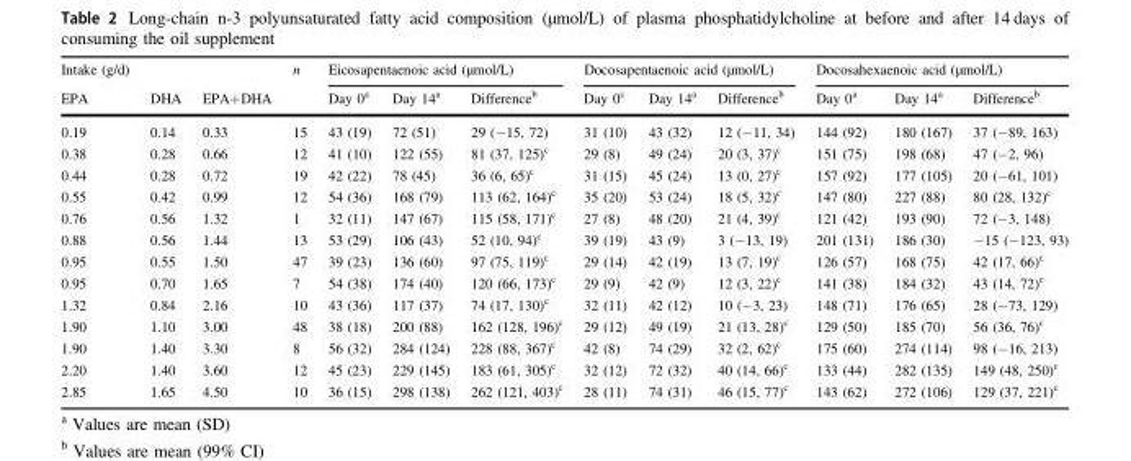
<table><thead><tr><td rowspan="2">Intake (g/d) EPA</td><td rowspan="2">DHA</td><td rowspan="2">EPA+DHA</td><td rowspan="2">n</td><td colspan="3">Eicosapentaenoic acid (µmol/L)</td><td colspan="3">Docosapentaenoic acid (µmol/L)</td><td colspan="3">Docosahexaenoic acid (µmol/L)</td></tr><tr><td>Day 0<sup>a</sup></td><td>Day 14<sup>a</sup></td><td>Difference<sup>b</sup></td><td>Day 0<sup>c</sup></td><td>Day 14<sup>a</sup></td><td>Difference<sup>b</sup></td><td>Day 0<sup>a</sup></td><td>Day 14<sup>a</sup></td><td>Difference<sup>b</sup></td></tr></thead><tbody><tr><td>0.19</td><td>0.14</td><td>0.33</td><td>15</td><td>43 (19)</td><td>72 (51)</td><td>29 (−15, 72)</td><td>31 (10)</td><td>43 (32)</td><td>12 (−11, 34)</td><td>144 (92)</td><td>180 (167)</td><td>37 (−89, 163)</td></tr><tr><td>0.38</td><td>0.28</td><td>0.66</td><td>12</td><td>41 (10)</td><td>122 (55)</td><td>81 (37, 125)<sup>c</sup></td><td>29 (8)</td><td>49 (24)</td><td>20 (3, 37)<sup>c</sup></td><td>151 (75)</td><td>198 (68)</td><td>47 (−2, 96)</td></tr><tr><td>0.44</td><td>0.28</td><td>0.72</td><td>19</td><td>42 (22)</td><td>78 (45)</td><td>36 (6, 65)<sup>c</sup></td><td>31 (15)</td><td>45 (24)</td><td>13 (0, 27)<sup>c</sup></td><td>157 (92)</td><td>177 (105)</td><td>20 (−61, 101)</td></tr><tr><td>0.55</td><td>0.42</td><td>0.99</td><td>12</td><td>54 (36)</td><td>168 (79)</td><td>113 (62, 164)<sup>c</sup></td><td>35 (20)</td><td>53 (24)</td><td>18 (5, 32)<sup>c</sup></td><td>147 (80)</td><td>227 (88)</td><td>80 (28, 132)<sup>c</sup></td></tr><tr><td>0.76</td><td>0.56</td><td>1.32</td><td>1</td><td>32 (11)</td><td>147 (67)</td><td>115 (58, 171)<sup>c</sup></td><td>27 (8)</td><td>48 (20)</td><td>21 (4, 39)<sup>c</sup></td><td>121 (42)</td><td>193 (90)</td><td>72 (−3, 148)</td></tr><tr><td>0.88</td><td>0.56</td><td>1.44</td><td>13</td><td>53 (29)</td><td>106 (43)</td><td>52 (10, 94)<sup>c</sup></td><td>39 (19)</td><td>43 (9)</td><td>3 (−13, 19)</td><td>201 (131)</td><td>186 (30)</td><td>−15 (−123, 93)</td></tr><tr><td>0.95</td><td>0.55</td><td>1.50</td><td>47</td><td>39 (23)</td><td>136 (60)</td><td>97 (75, 119)<sup>c</sup></td><td>29 (14)</td><td>42 (19)</td><td>13 (7, 19)<sup>c</sup></td><td>126 (57)</td><td>168 (75)</td><td>42 (17, 66)<sup>c</sup></td></tr><tr><td>0.95</td><td>0.70</td><td>1.65</td><td>7</td><td>54 (38)</td><td>174 (40)</td><td>120 (66, 173)<sup>c</sup></td><td>29 (9)</td><td>42 (9)</td><td>12 (3, 22)<sup>c</sup></td><td>141 (38)</td><td>184 (32)</td><td>43 (14, 72)<sup>c</sup></td></tr><tr><td>1.32</td><td>0.84</td><td>2.16</td><td>10</td><td>43 (36)</td><td>117 (37)</td><td>74 (17, 130)<sup>c</sup></td><td>32 (11)</td><td>42 (12)</td><td>10 (−3, 23)</td><td>148 (71)</td><td>176 (65)</td><td>28 (−73, 129)</td></tr><tr><td>1.90</td><td>1.10</td><td>3.00</td><td>48</td><td>38 (18)</td><td>200 (88)</td><td>162 (128, 196)<sup>c</sup></td><td>29 (12)</td><td>49 (19)</td><td>21 (13, 28)<sup>c</sup></td><td>129 (50)</td><td>185 (70)</td><td>56 (36, 76)<sup>c</sup></td></tr><tr><td>1.90</td><td>1.40</td><td>3.30</td><td>8</td><td>56 (32)</td><td>284 (124)</td><td>228 (88, 367)<sup>c</sup></td><td>42 (8)</td><td>74 (29)</td><td>32 (2, 62)<sup>c</sup></td><td>175 (60)</td><td>274 (114)</td><td>98 (−16, 213)</td></tr><tr><td>2.20</td><td>1.40</td><td>3.60</td><td>12</td><td>45 (23)</td><td>229 (145)</td><td>183 (61, 305)<sup>c</sup></td><td>32 (12)</td><td>72 (32)</td><td>40 (14, 66)<sup>c</sup></td><td>133 (44)</td><td>282 (135)</td><td>149 (48, 250)<sup>c</sup></td></tr><tr><td>2.85</td><td>1.65</td><td>4.50</td><td>10</td><td>36 (15)</td><td>298 (138)</td><td>262 (121, 403)<sup>c</sup></td><td>28 (11)</td><td>74 (31)</td><td>46 (15, 77)<sup>c</sup></td><td>143 (62)</td><td>272 (106)</td><td>129 (37, 221)<sup>c</sup></td></tr></tbody></table>